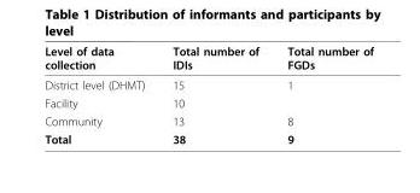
<table><thead><tr><td>Level of data collection</td><td>Total number of IDIs</td><td>Total number of FGDs</td></tr></thead><tbody><tr><td>District level (DHMT)</td><td>15</td><td>1</td></tr><tr><td>Facility</td><td>10</td><td></td></tr><tr><td>Community</td><td>13</td><td>8</td></tr><tr><td>Total</td><td>38</td><td>9</td></tr></tbody></table>